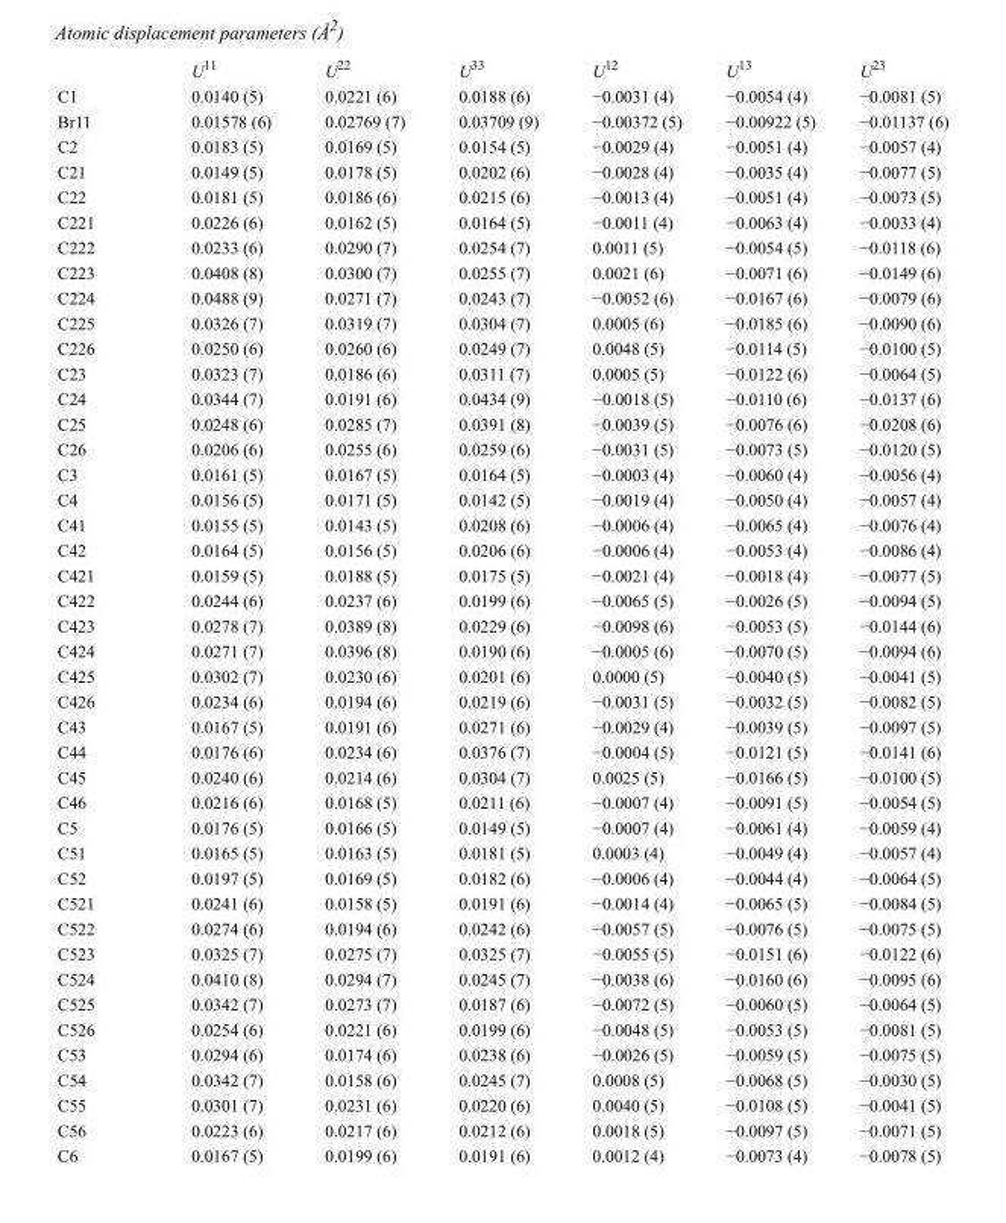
<table><thead><tr><td></td><td>U<sup>11</sup></td><td>U<sup>22</sup></td><td>U<sup>33</sup></td><td>U<sup>12</sup></td><td>U<sup>13</sup></td><td>U<sup>23</sup></td></tr></thead><tbody><tr><td>C1</td><td>0.0140 (5)</td><td>0.0221 (6)</td><td>0.0188 (6)</td><td>−0.0031 (4)</td><td>−0.0054 (4)</td><td>−0.0081 (5)</td></tr><tr><td>Br11</td><td>0.01578 (6)</td><td>0.02769 (7)</td><td>0.03709 (9)</td><td>−0.00372 (5)</td><td>−0.00922 (5)</td><td>−0.01137 (6)</td></tr><tr><td>C2</td><td>0.0183 (5)</td><td>0.0169 (5)</td><td>0.0154 (5)</td><td>−0.0029 (4)</td><td>−0.0051 (4)</td><td>−0.0057 (4)</td></tr><tr><td>C21</td><td>0.0149 (5)</td><td>0.0178 (5)</td><td>0.0202 (6)</td><td>−0.0028 (4)</td><td>−0.0035 (4)</td><td>−0.0077 (5)</td></tr><tr><td>C22</td><td>0.0181 (5)</td><td>0.0186 (6)</td><td>0.0215 (6)</td><td>−0.0013 (4)</td><td>−0.0051 (4)</td><td>−0.0073 (5)</td></tr><tr><td>C221</td><td>0.0226 (6)</td><td>0.0162 (5)</td><td>0.0164 (5)</td><td>−0.0011 (4)</td><td>−0.0063 (4)</td><td>−0.0033 (4)</td></tr><tr><td>C222</td><td>0.0233 (6)</td><td>0.0290 (7)</td><td>0.0254 (7)</td><td>0.0011 (5)</td><td>−0.0054 (5)</td><td>−0.0118 (6)</td></tr><tr><td>C223</td><td>0.0408 (8)</td><td>0.0300 (7)</td><td>0.0255 (7)</td><td>0.0021 (6)</td><td>−0.0071 (6)</td><td>−0.0149 (6)</td></tr><tr><td>C224</td><td>0.0488 (9)</td><td>0.0271 (7)</td><td>0.0243 (7)</td><td>−0.0052 (6)</td><td>−0.0167 (6)</td><td>−0.0079 (6)</td></tr><tr><td>C225</td><td>0.0326 (7)</td><td>0.0319 (7)</td><td>0.0304 (7)</td><td>0.0005 (6)</td><td>−0.0185 (6)</td><td>−0.0090 (6)</td></tr><tr><td>C226</td><td>0.0250 (6)</td><td>0.0260 (6)</td><td>0.0249 (7)</td><td>0.0048 (5)</td><td>−0.0114 (5)</td><td>−0.0100 (5)</td></tr><tr><td>C23</td><td>0.0323 (7)</td><td>0.0186 (6)</td><td>0.0311 (7)</td><td>0.0005 (5)</td><td>−0.0122 (6)</td><td>−0.0064 (5)</td></tr><tr><td>C24</td><td>0.0344 (7)</td><td>0.0191 (6)</td><td>0.0434 (9)</td><td>−0.0018 (5)</td><td>−0.0110 (6)</td><td>−0.0137 (6)</td></tr><tr><td>C25</td><td>0.0248 (6)</td><td>0.0285 (7)</td><td>0.0391 (8)</td><td>−0.0039 (5)</td><td>−0.0076 (6)</td><td>−0.0208 (6)</td></tr><tr><td>C26</td><td>0.0206 (6)</td><td>0.0255 (6)</td><td>0.0259 (6)</td><td>−0.0031 (5)</td><td>−0.0073 (5)</td><td>−0.0120 (5)</td></tr><tr><td>C3</td><td>0.0161 (5)</td><td>0.0167 (5)</td><td>0.0164 (5)</td><td>−0.0003 (4)</td><td>−0.0060 (4)</td><td>−0.0056 (4)</td></tr><tr><td>C4</td><td>0.0156 (5)</td><td>0.0171 (5)</td><td>0.0142 (5)</td><td>−0.0019 (4)</td><td>−0.0050 (4)</td><td>−0.0057 (4)</td></tr><tr><td>C41</td><td>0.0155 (5)</td><td>0.0143 (5)</td><td>0.0208 (6)</td><td>−0.0006 (4)</td><td>−0.0065 (4)</td><td>−0.0076 (4)</td></tr><tr><td>C42</td><td>0.0164 (5)</td><td>0.0156 (5)</td><td>0.0206 (6)</td><td>−0.0006 (4)</td><td>−0.0053 (4)</td><td>−0.0086 (4)</td></tr><tr><td>C421</td><td>0.0159 (5)</td><td>0.0188 (5)</td><td>0.0175 (5)</td><td>−0.0021 (4)</td><td>−0.0018 (4)</td><td>−0.0077 (5)</td></tr><tr><td>C422</td><td>0.0244 (6)</td><td>0.0237 (6)</td><td>0.0199 (6)</td><td>−0.0065 (5)</td><td>−0.0026 (5)</td><td>−0.0094 (5)</td></tr><tr><td>C423</td><td>0.0278 (7)</td><td>0.0389 (8)</td><td>0.0229 (6)</td><td>−0.0098 (6)</td><td>−0.0053 (5)</td><td>−0.0144 (6)</td></tr><tr><td>C424</td><td>0.0271 (7)</td><td>0.0396 (8)</td><td>0.0190 (6)</td><td>−0.0005 (6)</td><td>−0.0070 (5)</td><td>−0.0094 (6)</td></tr><tr><td>C425</td><td>0.0302 (7)</td><td>0.0230 (6)</td><td>0.0201 (6)</td><td>0.0000 (5)</td><td>−0.0040 (5)</td><td>−0.0041 (5)</td></tr><tr><td>C426</td><td>0.0234 (6)</td><td>0.0194 (6)</td><td>0.0219 (6)</td><td>−0.0031 (5)</td><td>−0.0032 (5)</td><td>−0.0082 (5)</td></tr><tr><td>C43</td><td>0.0167 (5)</td><td>0.0191 (6)</td><td>0.0271 (6)</td><td>−0.0029 (4)</td><td>−0.0039 (5)</td><td>−0.0097 (5)</td></tr><tr><td>C44</td><td>0.0176 (6)</td><td>0.0234 (6)</td><td>0.0376 (7)</td><td>−0.0004 (5)</td><td>−0.0121 (5)</td><td>−0.0141 (6)</td></tr><tr><td>C45</td><td>0.0240 (6)</td><td>0.0214 (6)</td><td>0.0304 (7)</td><td>0.0025 (5)</td><td>−0.0166 (5)</td><td>−0.0100 (5)</td></tr><tr><td>C46</td><td>0.0216 (6)</td><td>0.0168 (5)</td><td>0.0211 (6)</td><td>−0.0007 (4)</td><td>−0.0091 (5)</td><td>−0.0054 (5)</td></tr><tr><td>C5</td><td>0.0176 (5)</td><td>0.0166 (5)</td><td>0.0149 (5)</td><td>−0.0007 (4)</td><td>−0.0061 (4)</td><td>−0.0059 (4)</td></tr><tr><td>C51</td><td>0.0165 (5)</td><td>0.0163 (5)</td><td>0.0181 (5)</td><td>0.0003 (4)</td><td>−0.0049 (4)</td><td>−0.0057 (4)</td></tr><tr><td>C52</td><td>0.0197 (5)</td><td>0.0169 (5)</td><td>0.0182 (6)</td><td>−0.0006 (4)</td><td>−0.0044 (4)</td><td>−0.0064 (5)</td></tr><tr><td>C521</td><td>0.0241 (6)</td><td>0.0158 (5)</td><td>0.0191 (6)</td><td>−0.0014 (4)</td><td>−0.0065 (5)</td><td>−0.0084 (5)</td></tr><tr><td>C522</td><td>0.0274 (6)</td><td>0.0194 (6)</td><td>0.0242 (6)</td><td>−0.0057 (5)</td><td>−0.0076 (5)</td><td>−0.0075 (5)</td></tr><tr><td>C523</td><td>0.0325 (7)</td><td>0.0275 (7)</td><td>0.0325 (7)</td><td>−0.0055 (5)</td><td>−0.0151 (6)</td><td>−0.0122 (6)</td></tr><tr><td>C524</td><td>0.0410 (8)</td><td>0.0294 (7)</td><td>0.0245 (7)</td><td>−0.0038 (6)</td><td>−0.0160 (6)</td><td>−0.0095 (6)</td></tr><tr><td>C525</td><td>0.0342 (7)</td><td>0.0273 (7)</td><td>0.0187 (6)</td><td>−0.0072 (5)</td><td>−0.0060 (5)</td><td>−0.0064 (5)</td></tr><tr><td>C526</td><td>0.0254 (6)</td><td>0.0221 (6)</td><td>0.0199 (6)</td><td>−0.0048 (5)</td><td>−0.0053 (5)</td><td>−0.0081 (5)</td></tr><tr><td>C53</td><td>0.0294 (6)</td><td>0.0174 (6)</td><td>0.0238 (6)</td><td>−0.0026 (5)</td><td>−0.0059 (5)</td><td>−0.0075 (5)</td></tr><tr><td>C54</td><td>0.0342 (7)</td><td>0.0158 (6)</td><td>0.0245 (7)</td><td>0.0008 (5)</td><td>−0.0068 (5)</td><td>−0.0030 (5)</td></tr><tr><td>C55</td><td>0.0301 (7)</td><td>0.0231 (6)</td><td>0.0220 (6)</td><td>0.0040 (5)</td><td>−0.0108 (5)</td><td>−0.0041 (5)</td></tr><tr><td>C56</td><td>0.0223 (6)</td><td>0.0217 (6)</td><td>0.0212 (6)</td><td>0.0018 (5)</td><td>−0.0097 (5)</td><td>−0.0071 (5)</td></tr><tr><td>C6</td><td>0.0167 (5)</td><td>0.0199 (6)</td><td>0.0191 (6)</td><td>0.0012 (4)</td><td>−0.0073 (4)</td><td>−0.0078 (5)</td></tr></tbody></table>